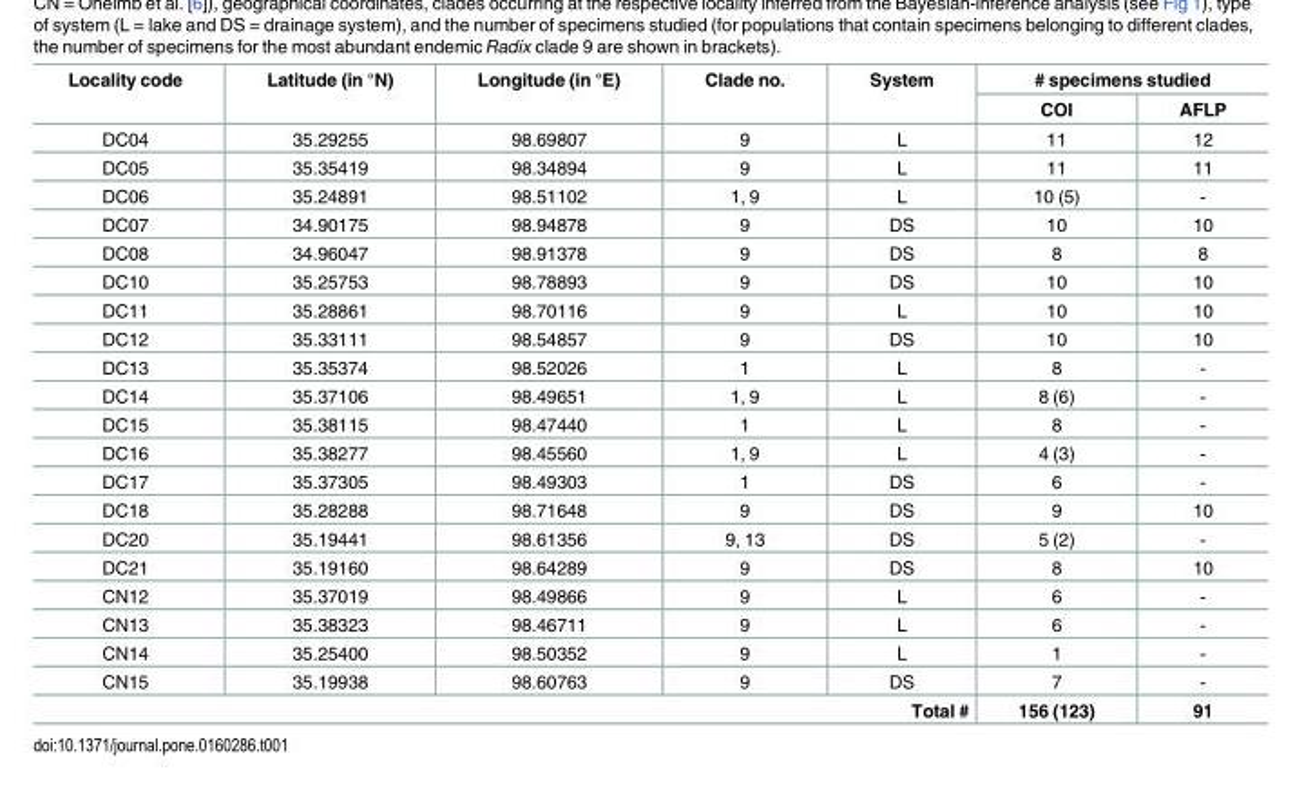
<table><thead><tr><td rowspan="2">Locality code</td><td rowspan="2">Latitude (in °N)</td><td rowspan="2">Longitude (in °E)</td><td rowspan="2">Clade no.</td><td rowspan="2">System</td><td colspan="2"># specimens studied</td></tr><tr><td>COI</td><td>AFLP</td></tr></thead><tbody><tr><td>DC04</td><td>35.29255</td><td>98.69807</td><td>9</td><td>L</td><td>11</td><td>12</td></tr><tr><td>DC05</td><td>35.35419</td><td>98.34894</td><td>9</td><td>L</td><td>11</td><td>11</td></tr><tr><td>DC06</td><td>35.24891</td><td>98.51102</td><td>1, 9</td><td>L</td><td>10 (5)</td><td>-</td></tr><tr><td>DC07</td><td>34.90175</td><td>98.94878</td><td>9</td><td>DS</td><td>10</td><td>10</td></tr><tr><td>DC08</td><td>34.96047</td><td>98.91378</td><td>9</td><td>DS</td><td>8</td><td>8</td></tr><tr><td>DC10</td><td>35.25753</td><td>98.78893</td><td>9</td><td>DS</td><td>10</td><td>10</td></tr><tr><td>DC11</td><td>35.28861</td><td>98.70116</td><td>9</td><td>L</td><td>10</td><td>10</td></tr><tr><td>DC12</td><td>35.33111</td><td>98.54857</td><td>9</td><td>DS</td><td>10</td><td>10</td></tr><tr><td>DC13</td><td>35.35374</td><td>98.52026</td><td>1</td><td>L</td><td>8</td><td>-</td></tr><tr><td>DC14</td><td>35.37106</td><td>98.49651</td><td>1, 9</td><td>L</td><td>8 (6)</td><td>-</td></tr><tr><td>DC15</td><td>35.38115</td><td>98.47440</td><td>1</td><td>L</td><td>8</td><td>-</td></tr><tr><td>DC16</td><td>35.38277</td><td>98.45560</td><td>1, 9</td><td>L</td><td>4 (3)</td><td>-</td></tr><tr><td>DC17</td><td>35.37305</td><td>98.49303</td><td>1</td><td>DS</td><td>6</td><td>-</td></tr><tr><td>DC18</td><td>35.28288</td><td>98.71648</td><td>9</td><td>DS</td><td>9</td><td>10</td></tr><tr><td>DC20</td><td>35.19441</td><td>98.61356</td><td>9, 13</td><td>DS</td><td>5 (2)</td><td>-</td></tr><tr><td>DC21</td><td>35.19160</td><td>98.64289</td><td>9</td><td>DS</td><td>8</td><td>10</td></tr><tr><td>CN12</td><td>35.37019</td><td>98.49866</td><td>9</td><td>L</td><td>6</td><td>-</td></tr><tr><td>CN13</td><td>35.38323</td><td>98.46711</td><td>9</td><td>L</td><td>6</td><td>-</td></tr><tr><td>CN14</td><td>35.25400</td><td>98.50352</td><td>9</td><td>L</td><td>1</td><td>-</td></tr><tr><td>CN15</td><td>35.19938</td><td>98.60763</td><td>9</td><td>DS</td><td>7</td><td>-</td></tr><tr><td colspan="5">Total #</td><td>156 (123)</td><td>91</td></tr></tbody></table>